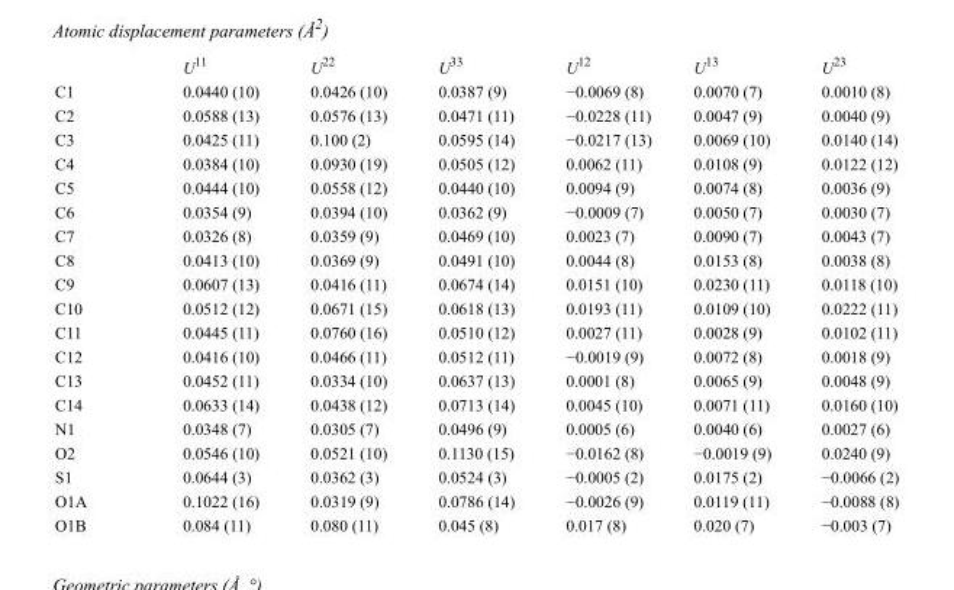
<table><thead><tr><td></td><td>U<sup>11</sup></td><td>U<sup>22</sup></td><td>U<sup>33</sup></td><td>U<sup>12</sup></td><td>U<sup>13</sup></td><td>U<sup>23</sup></td></tr></thead><tbody><tr><td>C1</td><td>0.0440 (10)</td><td>0.0426 (10)</td><td>0.0387 (9)</td><td>−0.0069 (8)</td><td>0.0070 (7)</td><td>0.0010 (8)</td></tr><tr><td>C2</td><td>0.0588 (13)</td><td>0.0576 (13)</td><td>0.0471 (11)</td><td>−0.0228 (11)</td><td>0.0047 (9)</td><td>0.0040 (9)</td></tr><tr><td>C3</td><td>0.0425 (11)</td><td>0.100 (2)</td><td>0.0595 (14)</td><td>−0.0217 (13)</td><td>0.0069 (10)</td><td>0.0140 (14)</td></tr><tr><td>C4</td><td>0.0384 (10)</td><td>0.0930 (19)</td><td>0.0505 (12)</td><td>0.0062 (11)</td><td>0.0108 (9)</td><td>0.0122 (12)</td></tr><tr><td>C5</td><td>0.0444 (10)</td><td>0.0558 (12)</td><td>0.0440 (10)</td><td>0.0094 (9)</td><td>0.0074 (8)</td><td>0.0036 (9)</td></tr><tr><td>C6</td><td>0.0354 (9)</td><td>0.0394 (10)</td><td>0.0362 (9)</td><td>−0.0009 (7)</td><td>0.0050 (7)</td><td>0.0030 (7)</td></tr><tr><td>C7</td><td>0.0326 (8)</td><td>0.0359 (9)</td><td>0.0469 (10)</td><td>0.0023 (7)</td><td>0.0090 (7)</td><td>0.0043 (7)</td></tr><tr><td>C8</td><td>0.0413 (10)</td><td>0.0369 (9)</td><td>0.0491 (10)</td><td>0.0044 (8)</td><td>0.0153 (8)</td><td>0.0038 (8)</td></tr><tr><td>C9</td><td>0.0607 (13)</td><td>0.0416 (11)</td><td>0.0674 (14)</td><td>0.0151 (10)</td><td>0.0230 (11)</td><td>0.0118 (10)</td></tr><tr><td>C10</td><td>0.0512 (12)</td><td>0.0671 (15)</td><td>0.0618 (13)</td><td>0.0193 (11)</td><td>0.0109 (10)</td><td>0.0222 (11)</td></tr><tr><td>C11</td><td>0.0445 (11)</td><td>0.0760 (16)</td><td>0.0510 (12)</td><td>0.0027 (11)</td><td>0.0028 (9)</td><td>0.0102 (11)</td></tr><tr><td>C12</td><td>0.0416 (10)</td><td>0.0466 (11)</td><td>0.0512 (11)</td><td>−0.0019 (9)</td><td>0.0072 (8)</td><td>0.0018 (9)</td></tr><tr><td>C13</td><td>0.0452 (11)</td><td>0.0334 (10)</td><td>0.0637 (13)</td><td>0.0001 (8)</td><td>0.0065 (9)</td><td>0.0048 (9)</td></tr><tr><td>C14</td><td>0.0633 (14)</td><td>0.0438 (12)</td><td>0.0713 (14)</td><td>0.0045 (10)</td><td>0.0071 (11)</td><td>0.0160 (10)</td></tr><tr><td>N1</td><td>0.0348 (7)</td><td>0.0305 (7)</td><td>0.0496 (9)</td><td>0.0005 (6)</td><td>0.0040 (6)</td><td>0.0027 (6)</td></tr><tr><td>O2</td><td>0.0546 (10)</td><td>0.0521 (10)</td><td>0.1130 (15)</td><td>−0.0162 (8)</td><td>−0.0019 (9)</td><td>0.0240 (9)</td></tr><tr><td>S1</td><td>0.0644 (3)</td><td>0.0362 (3)</td><td>0.0524 (3)</td><td>−0.0005 (2)</td><td>0.0175 (2)</td><td>−0.0066 (2)</td></tr><tr><td>O1A</td><td>0.1022 (16)</td><td>0.0319 (9)</td><td>0.0786 (14)</td><td>−0.0026 (9)</td><td>0.0119 (11)</td><td>−0.0088 (8)</td></tr><tr><td>O1B</td><td>0.084 (11)</td><td>0.080 (11)</td><td>0.045 (8)</td><td>0.017 (8)</td><td>0.020 (7)</td><td>−0.003 (7)</td></tr></tbody></table>